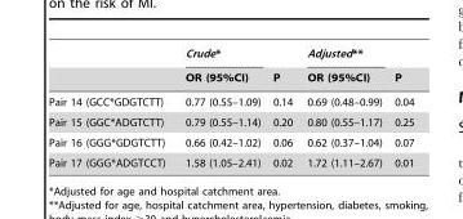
<table><thead><tr><td rowspan="2"></td><td rowspan="2">Crude* OR (95%CI)</td><td rowspan="2">P</td><td rowspan="2">Adjusted** OR (95%CI)</td><td rowspan="2">P</td></tr><tr></tr></thead><tbody><tr><td>Pair 14 (GCC*GDGTCTT)</td><td>0.77 (0.55–1.09)</td><td>0.14</td><td>0.69 (0.48–0.99)</td><td>0.04</td></tr><tr><td>Pair 15 (GGC*ADGTCTT)</td><td>0.79 (0.55–1.14)</td><td>0.20</td><td>0.80 (0.55–1.17)</td><td>0.25</td></tr><tr><td>Pair 16 (GGG*GDGTCTT)</td><td>0.66 (0.42–1.02)</td><td>0.06</td><td>0.62 (0.37–1.04)</td><td>0.07</td></tr><tr><td>Pair 17 (GGG*ADGTCCT)</td><td>1.58 (1.05–2.41)</td><td>0.02</td><td>1.72 (1.11–2.67)</td><td>0.01</td></tr></tbody></table>